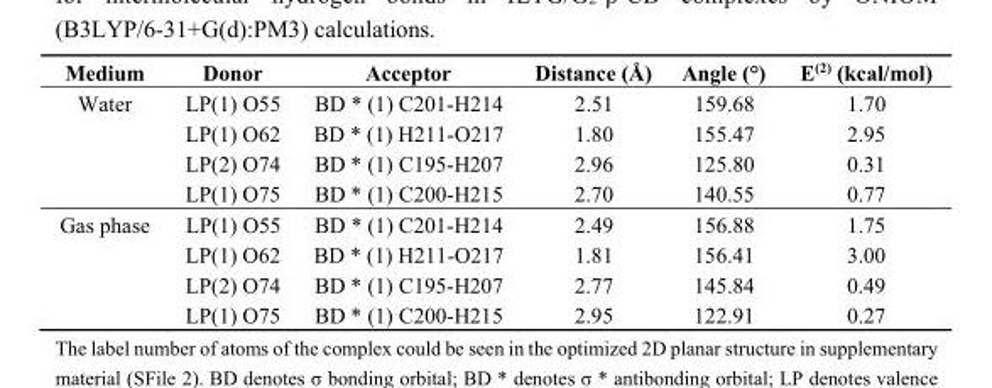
<table><thead><tr><td>Medium</td><td>Donor</td><td>Acceptor</td><td>Distance (Å)</td><td>Angle (°)</td><td>E<sup>(2)</sup> (kcal/mol)</td></tr></thead><tbody><tr><td rowspan="4">Water</td><td>LP(1) O55</td><td>BD * (1) C201-H214</td><td>2.51</td><td>159.68</td><td>1.70</td></tr><tr><td>LP(1) O62</td><td>BD * (1) H211-O217</td><td>1.80</td><td>155.47</td><td>2.95</td></tr><tr><td>LP(2) O74</td><td>BD * (1) C195-H207</td><td>2.96</td><td>125.80</td><td>0.31</td></tr><tr><td>LP(1) O75</td><td>BD * (1) C200-H215</td><td>2.70</td><td>140.55</td><td>0.77</td></tr><tr><td rowspan="4">Gas phase</td><td>LP(1) O55</td><td>BD * (1) C201-H214</td><td>2.49</td><td>156.88</td><td>1.75</td></tr><tr><td>LP(1) O62</td><td>BD * (1) H211-O217</td><td>1.81</td><td>156.41</td><td>3.00</td></tr><tr><td>LP(2) O74</td><td>BD * (1) C195-H207</td><td>2.77</td><td>145.84</td><td>0.49</td></tr><tr><td>LP(1) O75</td><td>BD * (1) C200-H215</td><td>2.95</td><td>122.91</td><td>0.27</td></tr></tbody></table>